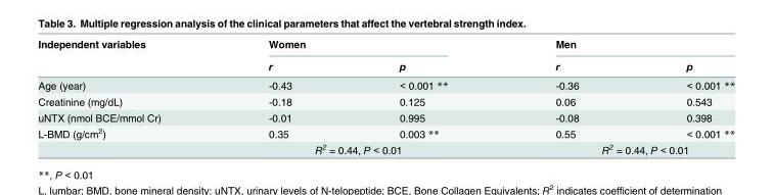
<table><thead><tr><td rowspan="2">Independent variables</td><td colspan="2">Women</td><td colspan="2">Men</td></tr><tr><td>r</td><td>p</td><td>r</td><td>p</td></tr></thead><tbody><tr><td>Age (year)</td><td>-0.43</td><td>&lt; 0.001 **</td><td>-0.36</td><td>&lt; 0.001 **</td></tr><tr><td>Creatinine (mg/dL)</td><td>-0.18</td><td>0.125</td><td>0.06</td><td>0.543</td></tr><tr><td>uNTX (nmol BCE/mmol Cr)</td><td>-0.01</td><td>0.995</td><td>-0.08</td><td>0.398</td></tr><tr><td rowspan="2">L-BMD (g/cm<sup>2</sup>)</td><td>0.35</td><td>0.003 **</td><td>0.55</td><td>&lt; 0.001 **</td></tr><tr><td colspan="2">R<sup>2</sup> = 0.44, P &lt; 0.01</td><td colspan="2">R<sup>2</sup> = 0.44, P &lt; 0.01</td></tr></tbody></table>